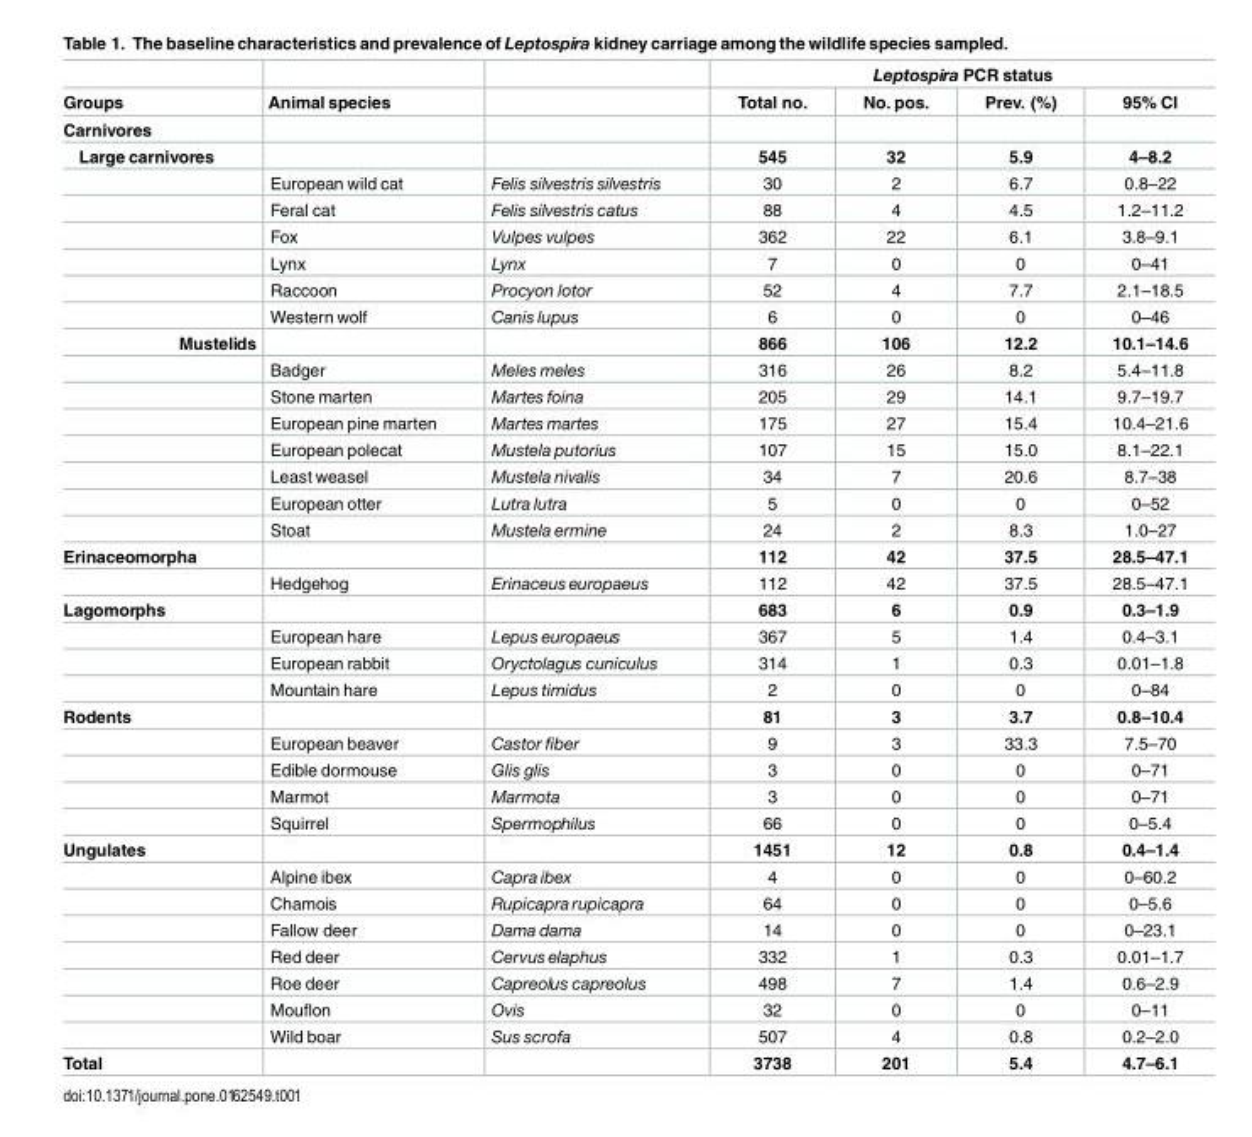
<table><thead><tr><td rowspan="2">Groups</td><td rowspan="2">Animal species</td><td rowspan="2"></td><td colspan="4">Leptospira PCR status</td></tr><tr><td>Total no.</td><td>No. pos.</td><td>Prev. (%)</td><td>95% CI</td></tr></thead><tbody><tr><td colspan="7">Carnivores</td></tr><tr><td rowspan="7">Large carnivores</td><td></td><td></td><td>545</td><td>32</td><td>5.9</td><td>4–8.2</td></tr><tr><td>European wild cat</td><td>Felis silvestris silvestris</td><td>30</td><td>2</td><td>6.7</td><td>0.8–22</td></tr><tr><td>Feral cat</td><td>Felis silvestris catus</td><td>88</td><td>4</td><td>4.5</td><td>1.2–11.2</td></tr><tr><td>Fox</td><td>Vulpes vulpes</td><td>362</td><td>22</td><td>6.1</td><td>3.8–9.1</td></tr><tr><td>Lynx</td><td>Lynx</td><td>7</td><td>0</td><td>0</td><td>0–41</td></tr><tr><td>Raccoon</td><td>Procyon lotor</td><td>52</td><td>4</td><td>7.7</td><td>2.1–18.5</td></tr><tr><td>Western wolf</td><td>Canis lupus</td><td>6</td><td>0</td><td>0</td><td>0–46</td></tr><tr><td rowspan="8">Mustelids</td><td></td><td></td><td>866</td><td>106</td><td>12.2</td><td>10.1–14.6</td></tr><tr><td>Badger</td><td>Meles meles</td><td>316</td><td>26</td><td>8.2</td><td>5.4–11.8</td></tr><tr><td>Stone marten</td><td>Martes foina</td><td>205</td><td>29</td><td>14.1</td><td>9.7–19.7</td></tr><tr><td>European pine marten</td><td>Martes martes</td><td>175</td><td>27</td><td>15.4</td><td>10.4–21.6</td></tr><tr><td>European polecat</td><td>Mustela putorius</td><td>107</td><td>15</td><td>15.0</td><td>8.1–22.1</td></tr><tr><td>Least weasel</td><td>Mustela nivalis</td><td>34</td><td>7</td><td>20.6</td><td>8.7–38</td></tr><tr><td>European otter</td><td>Lutra lutra</td><td>5</td><td>0</td><td>0</td><td>0–52</td></tr><tr><td>Stoat</td><td>Mustela ermine</td><td>24</td><td>2</td><td>8.3</td><td>1.0–27</td></tr><tr><td rowspan="2">Erinaceomorpha</td><td></td><td></td><td>112</td><td>42</td><td>37.5</td><td>28.5–47.1</td></tr><tr><td>Hedgehog</td><td>Erinaceuseuropaeus</td><td>112</td><td>42</td><td>37.5</td><td>28.5–47.1</td></tr><tr><td rowspan="4">Lagomorphs</td><td></td><td></td><td>683</td><td>6</td><td>0.9</td><td>0.3–1.9</td></tr><tr><td>European hare</td><td>Lepus europaeus</td><td>367</td><td>5</td><td>1.4</td><td>0.4–3.1</td></tr><tr><td>European rabbit</td><td>Oryctolagus cuniculus</td><td>314</td><td>1</td><td>0.3</td><td>0.01–1.8</td></tr><tr><td>Mountain hare</td><td>Lepus timidus</td><td>2</td><td>0</td><td>0</td><td>0–84</td></tr><tr><td rowspan="5">Rodents</td><td></td><td></td><td>81</td><td>3</td><td>3.7</td><td>0.8–10.4</td></tr><tr><td>European beaver</td><td>Castor fiber</td><td>9</td><td>3</td><td>33.3</td><td>7.5–70</td></tr><tr><td>Edible dormouse</td><td>Glis glis</td><td>3</td><td>0</td><td>0</td><td>0–71</td></tr><tr><td>Marmot</td><td>Marmota</td><td>3</td><td>0</td><td>0</td><td>0–71</td></tr><tr><td>Squirrel</td><td>Spermophilus</td><td>66</td><td>0</td><td>0</td><td>0–5.4</td></tr><tr><td rowspan="8">Ungulates</td><td></td><td></td><td>1451</td><td>12</td><td>0.8</td><td>0.4–1.4</td></tr><tr><td>Alpine ibex</td><td>Capra ibex</td><td>4</td><td>0</td><td>0</td><td>0–60.2</td></tr><tr><td>Chamois</td><td>Rupicapra rupicapra</td><td>64</td><td>0</td><td>0</td><td>0–5.6</td></tr><tr><td>Fallow deer</td><td>Dama dama</td><td>14</td><td>0</td><td>0</td><td>0–23.1</td></tr><tr><td>Red deer</td><td>Cervus elaphus</td><td>332</td><td>1</td><td>0.3</td><td>0.01–1.7</td></tr><tr><td>Roe deer</td><td>Capreolus capreolus</td><td>498</td><td>7</td><td>1.4</td><td>0.6–2.9</td></tr><tr><td>Mouflon</td><td>Ovis</td><td>32</td><td>0</td><td>0</td><td>0–11</td></tr><tr><td>Wild boar</td><td>Sus scrofa</td><td>507</td><td>4</td><td>0.8</td><td>0.2–2.0</td></tr><tr><td>Total</td><td></td><td></td><td>3738</td><td>201</td><td>5.4</td><td>4.7–6.1</td></tr></tbody></table>